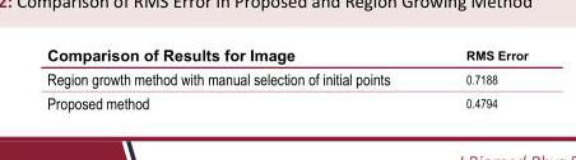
<table><thead><tr><td>Comparison of Results for Image</td><td>RMS Error</td></tr></thead><tbody><tr><td>Region growth method with manual selection of initial points</td><td>0.7188</td></tr><tr><td>Proposed method</td><td>0.4794</td></tr></tbody></table>